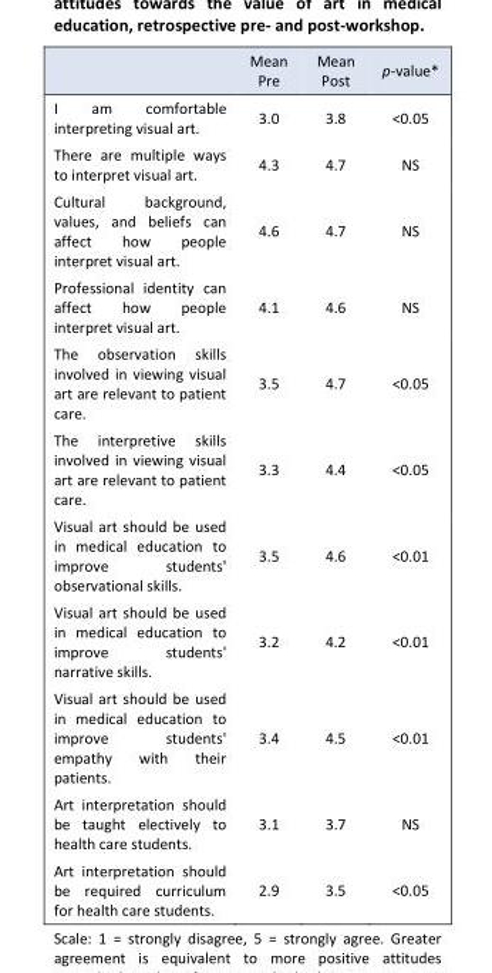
<table><thead><tr><td></td><td>Mean Pre</td><td>Mean Post</td><td>p-value*</td></tr></thead><tbody><tr><td>I am comfortable interpreting visual art.</td><td>3.0</td><td>3.8</td><td>&lt;0.05</td></tr><tr><td>There are multiple ways to interpret visual art.</td><td>4.3</td><td>4.7</td><td>NS</td></tr><tr><td>Cultural background, values, and beliefs can affect how people interpret visual art.</td><td>4.6</td><td>4.7</td><td>NS</td></tr><tr><td>Professional identity can affect how people interpret visual art.</td><td>4.1</td><td>4.6</td><td>NS</td></tr><tr><td>The observation skills involved in viewing visual art are relevant to patient care.</td><td>3.5</td><td>4.7</td><td>&lt;0.05</td></tr><tr><td>The interpretive skills involved in viewing visual art are relevant to patient care.</td><td>3.3</td><td>4.4</td><td>&lt;0.05</td></tr><tr><td>Visual art should be used in medical education to improve students&#x27; observational skills.</td><td>3.5</td><td>4.6</td><td>&lt;0.01</td></tr><tr><td>Visual art should be used in medical education to improve students&#x27; narrative skills.</td><td>3.2</td><td>4.2</td><td>&lt;0.01</td></tr><tr><td>Visual art should be used in medical education to improve students&#x27; empathy with their patients.</td><td>3.4</td><td>4.5</td><td>&lt;0.01</td></tr><tr><td>Art interpretation should be taught electively to health care students.</td><td>3.1</td><td>3.7</td><td>NS</td></tr><tr><td>Art interpretation should be required curriculum for health care students.</td><td>2.9</td><td>3.5</td><td>&lt;0.05</td></tr></tbody></table>